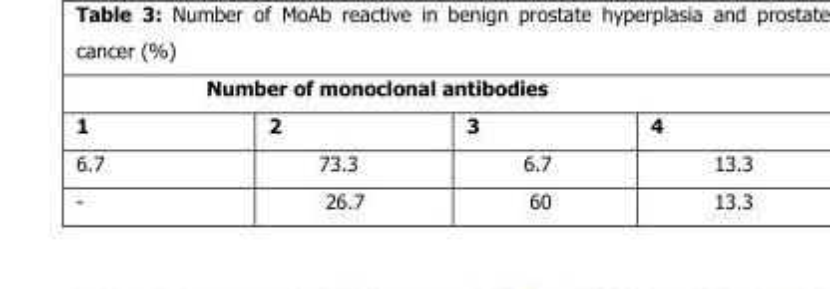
<table><thead><tr><td colspan="4">Number of monoclonal antibodies</td></tr><tr><td>1</td><td>2</td><td>3</td><td>4</td></tr></thead><tbody><tr><td>6.7</td><td>73.3</td><td>6.7</td><td>13.3</td></tr><tr><td>-</td><td>26.7</td><td>60</td><td>13.3</td></tr></tbody></table>